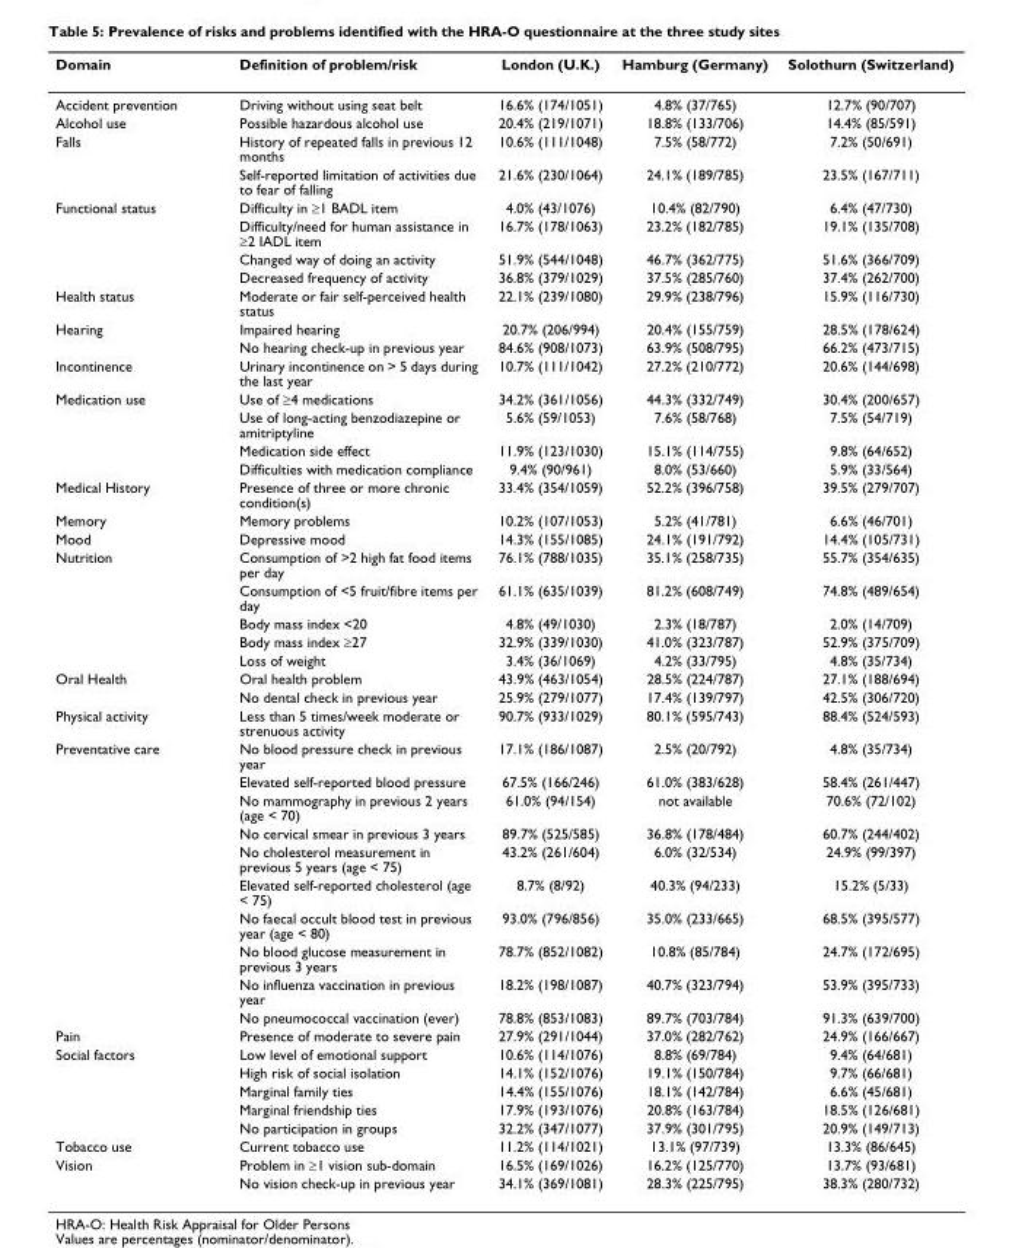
<table><thead><tr><td>Domain</td><td>Definition of problem/risk</td><td>London (U.K.)</td><td>Hamburg (Germany)</td><td>Solothurn (Switzerland)</td></tr></thead><tbody><tr><td>Accident prevention</td><td>Driving without using seat belt</td><td>16.6% (174/1051)</td><td>4.8% (37/765)</td><td>12.7% (90/707)</td></tr><tr><td>Alcohol use</td><td>Possible hazardous alcohol use</td><td>20.4% (219/1071)</td><td>18.8% (133/706)</td><td>14.4% (85/591)</td></tr><tr><td rowspan="2">Falls</td><td>History of repeated falls in previous 12 months</td><td>10.6% (111/1048)</td><td>7.5% (58/772)</td><td>7.2% (50/691)</td></tr><tr><td>Self-reported limitation of activities due to fear of falling</td><td>21.6% (230/1064)</td><td>24.1% (189/785)</td><td>23.5% (167/711)</td></tr><tr><td rowspan="4">Functional status</td><td>Difficulty in ≥1 BADL item</td><td>4.0% (43/1076)</td><td>10.4% (82/790)</td><td>6.4% (47/730)</td></tr><tr><td>Difficulty/need for human assistance in ≥2 IADL item</td><td>16.7% (178/1063)</td><td>23.2% (182/785)</td><td>19.1% (135/708)</td></tr><tr><td>Changed way of doing an activity</td><td>51.9% (544/1048)</td><td>46.7% (362/775)</td><td>51.6% (366/709)</td></tr><tr><td>Decreased frequency of activity</td><td>36.8% (379/1029)</td><td>37.5% (285/760)</td><td>37.4% (262/700)</td></tr><tr><td>Health status</td><td>Moderate or fair self-perceived health status</td><td>22.1% (239/1080)</td><td>29.9% (238/796)</td><td>15.9% (116/730)</td></tr><tr><td rowspan="2">Hearing</td><td>Impaired hearing</td><td>20.7% (206/994)</td><td>20.4% (155/759)</td><td>28.5% (178/624)</td></tr><tr><td>No hearing check-up in previous year</td><td>84.6% (908/1073)</td><td>63.9% (508/795)</td><td>66.2% (473/715)</td></tr><tr><td>Incontinence</td><td>Urinary incontinence on &gt; 5 days during the last year</td><td>10.7% (111/1042)</td><td>27.2% (210/772)</td><td>20.6% (144/698)</td></tr><tr><td rowspan="4">Medication use</td><td>Use of ≥4 medications</td><td>34.2% (361/1056)</td><td>44.3% (332/749)</td><td>30.4% (200/657)</td></tr><tr><td>Use of long-acting benzodiazepine or amitriptyline</td><td>5.6% (59/1053)</td><td>7.6% (58/768)</td><td>7.5% (54/719)</td></tr><tr><td>Medication side effect</td><td>11.9% (123/1030)</td><td>15.1% (114/755)</td><td>9.8% (64/652)</td></tr><tr><td>Difficulties with medication compliance</td><td>9.4% (90/961)</td><td>8.0% (53/660)</td><td>5.9% (33/564)</td></tr><tr><td>Medical History</td><td>Presence of three or more chronic condition(s)</td><td>33.4% (354/1059)</td><td>52.2% (396/758)</td><td>39.5% (279/707)</td></tr><tr><td>Memory</td><td>Memory problems</td><td>10.2% (107/1053)</td><td>5.2% (41/781)</td><td>6.6% (46/701)</td></tr><tr><td>Mood</td><td>Depressive mood</td><td>14.3% (155/1085)</td><td>24.1% (191/792)</td><td>14.4% (105/731)</td></tr><tr><td rowspan="5">Nutrition</td><td>Consumption of &gt;2 high fat food items per day</td><td>76.1% (788/1035)</td><td>35.1% (258/735)</td><td>55.7% (354/635)</td></tr><tr><td>Consumption of &lt;5 fruit/fibre items per day</td><td>61.1% (635/1039)</td><td>81.2% (608/749)</td><td>74.8% (489/654)</td></tr><tr><td>Body mass index &lt;20</td><td>4.8% (49/1030)</td><td>2.3% (18/787)</td><td>2.0% (14/709)</td></tr><tr><td>Body mass index ≥27</td><td>32.9% (339/1030)</td><td>41.0% (323/787)</td><td>52.9% (375/709)</td></tr><tr><td>Loss of weight</td><td>3.4% (36/1069)</td><td>4.2% (33/795)</td><td>4.8% (35/734)</td></tr><tr><td rowspan="2">Oral Health</td><td>Oral health problem</td><td>43.9% (463/1054)</td><td>28.5% (224/787)</td><td>27.1% (188/694)</td></tr><tr><td>No dental check in previous year</td><td>25.9% (279/1077)</td><td>17.4% (139/797)</td><td>42.5% (306/720)</td></tr><tr><td>Physical activity</td><td>Less than 5 times/week moderate or strenuous activity</td><td>90.7% (933/1029)</td><td>80.1% (595/743)</td><td>88.4% (524/593)</td></tr><tr><td rowspan="10">Preventative care</td><td>No blood pressure check in previous year</td><td>17.1% (186/1087)</td><td>2.5% (20/792)</td><td>4.8% (35/734)</td></tr><tr><td>Elevated self-reported blood pressure</td><td>67.5% (166/246)</td><td>61.0% (383/628)</td><td>58.4% (261/447)</td></tr><tr><td>No mammography in previous 2 years (age &lt; 70)</td><td>61.0% (94/154)</td><td>not available</td><td>70.6% (72/102)</td></tr><tr><td>No cervical smear in previous 3 years</td><td>89.7% (525/585)</td><td>36.8% (178/484)</td><td>60.7% (244/402)</td></tr><tr><td>No cholesterol measurement in previous 5 years (age &lt; 75)</td><td>43.2% (261/604)</td><td>6.0% (32/534)</td><td>24.9% (99/397)</td></tr><tr><td>Elevated self-reported cholesterol (age &lt; 75)</td><td>8.7% (8/92)</td><td>40.3% (94/233)</td><td>15.2% (5/33)</td></tr><tr><td>No faecal occult blood test in previous year (age &lt; 80)</td><td>93.0% (796/856)</td><td>35.0% (233/665)</td><td>68.5% (395/577)</td></tr><tr><td>No blood glucose measurement in previous 3 years</td><td>78.7% (852/1082)</td><td>10.8% (85/784)</td><td>24.7% (172/695)</td></tr><tr><td>No influenza vaccination in previous year</td><td>18.2% (198/1087)</td><td>40.7% (323/794)</td><td>53.9% (395/733)</td></tr><tr><td>No pneumococcal vaccination (ever)</td><td>78.8% (853/1083)</td><td>89.7% (703/784)</td><td>91.3% (639/700)</td></tr><tr><td>Pain</td><td>Presence of moderate to severe pain</td><td>27.9% (291/1044)</td><td>37.0% (282/762)</td><td>24.9% (166/667)</td></tr><tr><td rowspan="5">Social factors</td><td>Low level of emotional support</td><td>10.6% (114/1076)</td><td>8.8% (69/784)</td><td>9.4% (64/681)</td></tr><tr><td>High risk of social isolation</td><td>14.1% (152/1076)</td><td>19.1% (150/784)</td><td>9.7% (66/681)</td></tr><tr><td>Marginal family ties</td><td>14.4% (155/1076)</td><td>18.1% (142/784)</td><td>6.6% (45/681)</td></tr><tr><td>Marginal friendship ties</td><td>17.9% (193/1076)</td><td>20.8% (163/784)</td><td>18.5% (126/681)</td></tr><tr><td>No participation in groups</td><td>32.2% (347/1077)</td><td>37.9% (301/795)</td><td>20.9% (149/713)</td></tr><tr><td>Tobacco use</td><td>Current tobacco use</td><td>11.2% (114/1021)</td><td>13.1% (97/739)</td><td>13.3% (86/645)</td></tr><tr><td rowspan="2">Vision</td><td>Problem in ≥1 vision sub-domain</td><td>16.5% (169/1026)</td><td>16.2% (125/770)</td><td>13.7% (93/681)</td></tr><tr><td>No vision check-up in previous year</td><td>34.1% (369/1081)</td><td>28.3% (225/795)</td><td>38.3% (280/732)</td></tr></tbody></table>